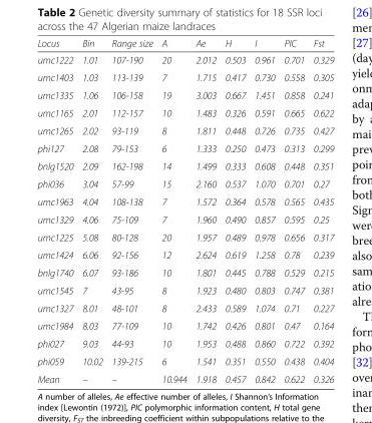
<table><thead><tr><td>Locus</td><td>Bin</td><td>Range size</td><td>A</td><td>Ae</td><td>H</td><td>I</td><td>PIC</td><td>Fst</td></tr></thead><tbody><tr><td>umc1222</td><td>1.01</td><td>107-190</td><td>20</td><td>2.012</td><td>0.503</td><td>0.961</td><td>0.701</td><td>0.329</td></tr><tr><td>umc1403</td><td>1.03</td><td>113-139</td><td>7</td><td>1.715</td><td>0.417</td><td>0.730</td><td>0.558</td><td>0.305</td></tr><tr><td>umc1335</td><td>1.06</td><td>106-158</td><td>19</td><td>3.003</td><td>0.667</td><td>1.451</td><td>0.858</td><td>0.241</td></tr><tr><td>umc1165</td><td>2.01</td><td>112-157</td><td>10</td><td>1.483</td><td>0.326</td><td>0.591</td><td>0.665</td><td>0.622</td></tr><tr><td>umc1265</td><td>2.02</td><td>93-119</td><td>8</td><td>1.811</td><td>0.448</td><td>0.726</td><td>0.735</td><td>0.427</td></tr><tr><td>phi127</td><td>2.08</td><td>79-153</td><td>6</td><td>1.333</td><td>0.250</td><td>0.473</td><td>0.313</td><td>0.299</td></tr><tr><td>bnlg1520</td><td>2.09</td><td>162-198</td><td>14</td><td>1.499</td><td>0.333</td><td>0.608</td><td>0.448</td><td>0.351</td></tr><tr><td>phi036</td><td>3.04</td><td>57-99</td><td>15</td><td>2.160</td><td>0.537</td><td>1.070</td><td>0.701</td><td>0.27</td></tr><tr><td>umc1963</td><td>4.04</td><td>108-138</td><td>7</td><td>1.572</td><td>0.364</td><td>0.578</td><td>0.565</td><td>0.435</td></tr><tr><td>umc1329</td><td>4.06</td><td>75-109</td><td>7</td><td>1.960</td><td>0.490</td><td>0.857</td><td>0.595</td><td>0.25</td></tr><tr><td>umc1225</td><td>5.08</td><td>80-128</td><td>20</td><td>1.957</td><td>0.489</td><td>0.978</td><td>0.656</td><td>0.317</td></tr><tr><td>umc1424</td><td>6.06</td><td>92-156</td><td>12</td><td>2.624</td><td>0.619</td><td>1.258</td><td>0.78</td><td>0.239</td></tr><tr><td>bnlg1740</td><td>6.07</td><td>93-186</td><td>10</td><td>1.801</td><td>0.445</td><td>0.788</td><td>0.529</td><td>0.215</td></tr><tr><td>umc1545</td><td>7</td><td>43-95</td><td>8</td><td>1.923</td><td>0.480</td><td>0.803</td><td>0.747</td><td>0.381</td></tr><tr><td>umc1327</td><td>8.01</td><td>48-101</td><td>8</td><td>2.433</td><td>0.589</td><td>1.074</td><td>0.71</td><td>0.227</td></tr><tr><td>umc1984</td><td>8.03</td><td>77-109</td><td>10</td><td>1.742</td><td>0.426</td><td>0.801</td><td>0.47</td><td>0.164</td></tr><tr><td>phi027</td><td>9.03</td><td>44-93</td><td>10</td><td>1.953</td><td>0.488</td><td>0.860</td><td>0.722</td><td>0.392</td></tr><tr><td>phi059</td><td>10.02</td><td>139-215</td><td>6</td><td>1.541</td><td>0.351</td><td>0.550</td><td>0.438</td><td>0.404</td></tr><tr><td>Mean</td><td>–</td><td>–</td><td>10.944</td><td>1.918</td><td>0.457</td><td>0.842</td><td>0.622</td><td>0.326</td></tr></tbody></table>